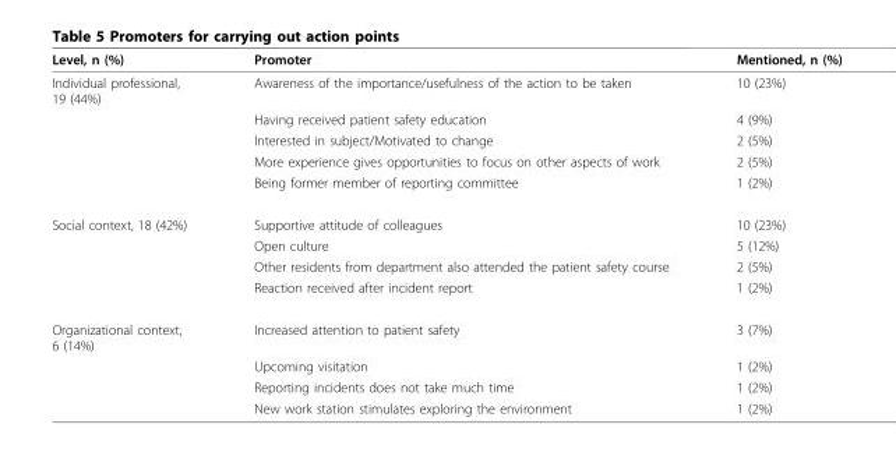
<table><thead><tr><td>Level, n (%)</td><td>Promoter</td><td>Mentioned, n (%)</td></tr></thead><tbody><tr><td rowspan="5">Individual professional, 19 (44%)</td><td>Awareness of the importance/usefulness of the action to be taken</td><td>10 (23%)</td></tr><tr><td>Having received patient safety education</td><td>4 (9%)</td></tr><tr><td>Interested in subject/Motivated to change</td><td>2 (5%)</td></tr><tr><td>More experience gives opportunities to focus on other aspects of work</td><td>2 (5%)</td></tr><tr><td>Being former member of reporting committee</td><td>1 (2%)</td></tr><tr><td rowspan="4">Social context, 18 (42%)</td><td>Supportive attitude of colleagues</td><td>10 (23%)</td></tr><tr><td>Open culture</td><td>5 (12%)</td></tr><tr><td>Other residents from department also attended the patient safety course</td><td>2 (5%)</td></tr><tr><td>Reaction received after incident report</td><td>1 (2%)</td></tr><tr><td rowspan="4">Organizational context, 6 (14%)</td><td>Increased attention to patient safety</td><td>3 (7%)</td></tr><tr><td>Upcoming visitation</td><td>1 (2%)</td></tr><tr><td>Reporting incidents does not take much time</td><td>1 (2%)</td></tr><tr><td>New work station stimulates exploring the environment</td><td>1 (2%)</td></tr></tbody></table>